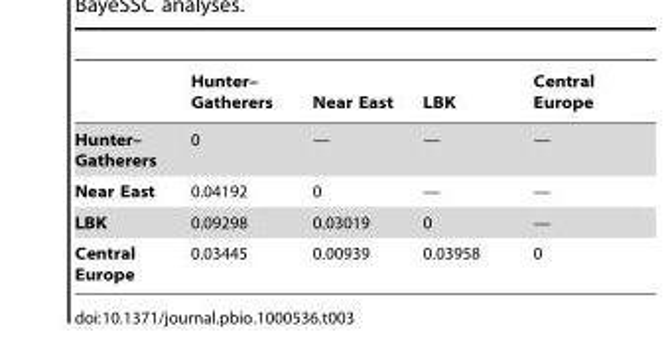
<table><thead><tr><td></td><td>Hunter– Gatherers</td><td>Near East</td><td>LBK</td><td>Central Europe</td></tr></thead><tbody><tr><td>Hunter– Gatherers</td><td>0</td><td>—</td><td>—</td><td>—</td></tr><tr><td>Near East</td><td>0.04192</td><td>0</td><td>—</td><td>—</td></tr><tr><td>LBK</td><td>0.09298</td><td>0.03019</td><td>0</td><td>—</td></tr><tr><td>Central Europe</td><td>0.03445</td><td>0.00939</td><td>0.03958</td><td>0</td></tr></tbody></table>